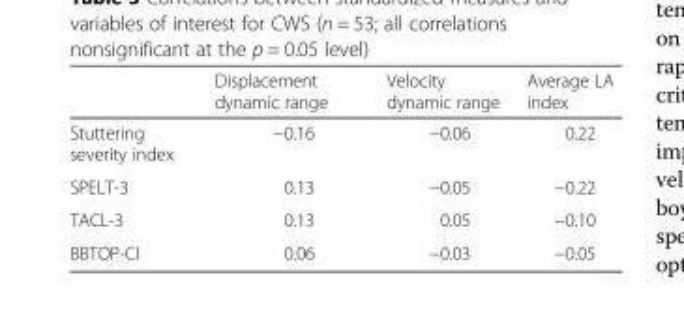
<table><thead><tr><td></td><td>Displacement dynamic range</td><td>Velocity dynamic range</td><td>Average LA index</td></tr></thead><tbody><tr><td>Stuttering severity index</td><td>−0.16</td><td>−0.06</td><td>0.22</td></tr><tr><td>SPELT-3</td><td>0.13</td><td>−0.05</td><td>−0.22</td></tr><tr><td>TACL-3</td><td>0.13</td><td>0.05</td><td>−0.10</td></tr><tr><td>BBTOP-CI</td><td>0.06</td><td>−0.03</td><td>−0.05</td></tr></tbody></table>